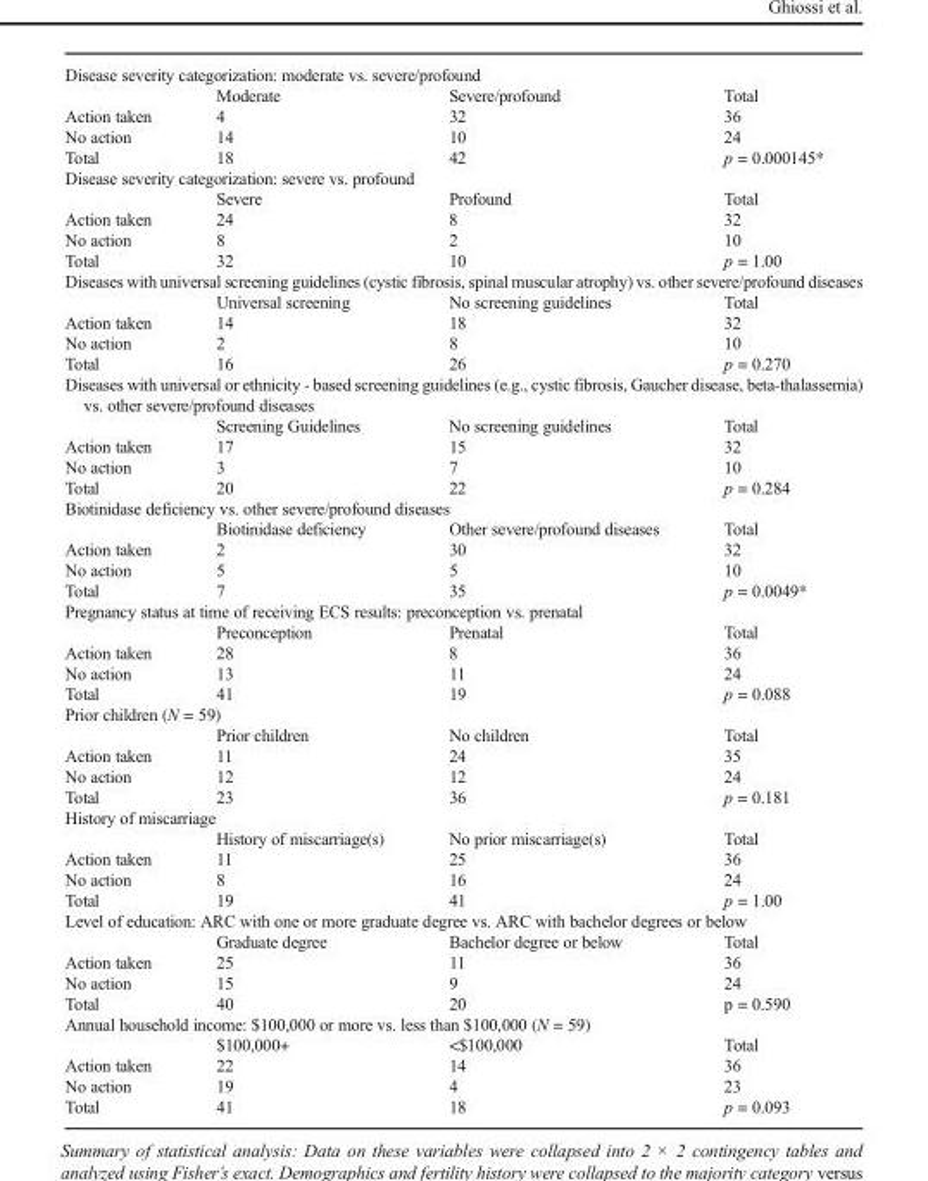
<table><tbody><tr><td colspan="4">Disease severity categorization: moderate vs. severe/profound</td></tr><tr><td></td><td>Moderate</td><td>Severe/profound</td><td>Total</td></tr><tr><td>Action taken</td><td>4</td><td>32</td><td>36</td></tr><tr><td>No action</td><td>14</td><td>10</td><td>24</td></tr><tr><td>Total</td><td>18</td><td>42</td><td>p = 0.000145*</td></tr><tr><td colspan="4">Disease severity categorization: severe vs. profound</td></tr><tr><td></td><td>Severe</td><td>Profound</td><td>Total</td></tr><tr><td>Action taken</td><td>24</td><td>8</td><td>32</td></tr><tr><td>No action</td><td>8</td><td>2</td><td>10</td></tr><tr><td>Total</td><td>32</td><td>10</td><td>p = 1.00</td></tr><tr><td colspan="4">Diseases with universal screening guidelines (cystic fibrosis, spinal muscular atrophy) vs. other severe/profound diseases</td></tr><tr><td></td><td>Universal screening</td><td>No screening guidelines</td><td>Total</td></tr><tr><td>Action taken</td><td>14</td><td>18</td><td>32</td></tr><tr><td>No action</td><td>2</td><td>8</td><td>10</td></tr><tr><td>Total</td><td>16</td><td>26</td><td>p = 0.270</td></tr><tr><td colspan="4">Diseases with universal or ethnicity - based screening guidelines (e.g., cystic fibrosis, Gaucher disease, beta-thalassemia) vs. other severe/profound diseases</td></tr><tr><td></td><td>Screening Guidelines</td><td>No screening guidelines</td><td>Total</td></tr><tr><td>Action taken</td><td>17</td><td>15</td><td>32</td></tr><tr><td>No action</td><td>3</td><td>7</td><td>10</td></tr><tr><td>Total</td><td>20</td><td>22</td><td>p = 0.284</td></tr><tr><td colspan="4">Biotinidase deficiency vs. other severe/profound diseases</td></tr><tr><td></td><td>Biotinidase deficiency</td><td>Other severe/profound diseases</td><td>Total</td></tr><tr><td>Action taken</td><td>2</td><td>30</td><td>32</td></tr><tr><td>No action</td><td>5</td><td>5</td><td>10</td></tr><tr><td>Total</td><td>7</td><td>35</td><td>p = 0.0049*</td></tr><tr><td colspan="4">Pregnancy status at time of receiving ECS results: preconception vs. prenatal</td></tr><tr><td></td><td>Preconception</td><td>Prenatal</td><td>Total</td></tr><tr><td>Action taken</td><td>28</td><td>8</td><td>36</td></tr><tr><td>No action</td><td>13</td><td>11</td><td>24</td></tr><tr><td>Total</td><td>41</td><td>19</td><td>p = 0.088</td></tr><tr><td colspan="4">Prior children (N = 59)</td></tr><tr><td></td><td>Prior children</td><td>No children</td><td>Total</td></tr><tr><td>Action taken</td><td>11</td><td>24</td><td>35</td></tr><tr><td>No action</td><td>12</td><td>12</td><td>24</td></tr><tr><td>Total</td><td>23</td><td>36</td><td>p = 0.181</td></tr><tr><td colspan="4">History of miscarriage</td></tr><tr><td></td><td>History of miscarriage(s)</td><td>No prior miscarriage(s)</td><td>Total</td></tr><tr><td>Action taken</td><td>11</td><td>25</td><td>36</td></tr><tr><td>No action</td><td>8</td><td>16</td><td>24</td></tr><tr><td>Total</td><td>19</td><td>41</td><td>p = 1.00</td></tr><tr><td colspan="4">Level of education: ARC with one or more graduate degree vs. ARC with bachelor degrees or below</td></tr><tr><td></td><td>Graduate degree</td><td>Bachelor degree or below</td><td>Total</td></tr><tr><td>Action taken</td><td>25</td><td>11</td><td>36</td></tr><tr><td>No action</td><td>15</td><td>9</td><td>24</td></tr><tr><td>Total</td><td>40</td><td>20</td><td>p = 0.590</td></tr><tr><td colspan="4">Annual household income: $100,000 or more vs. less than $100,000 (N = 59)</td></tr><tr><td></td><td>$100,000+</td><td>&lt;$100,000</td><td>Total</td></tr><tr><td>Action taken</td><td>22</td><td>14</td><td>36</td></tr><tr><td>No action</td><td>19</td><td>4</td><td>23</td></tr><tr><td>Total</td><td>41</td><td>18</td><td>p = 0.093</td></tr></tbody></table>